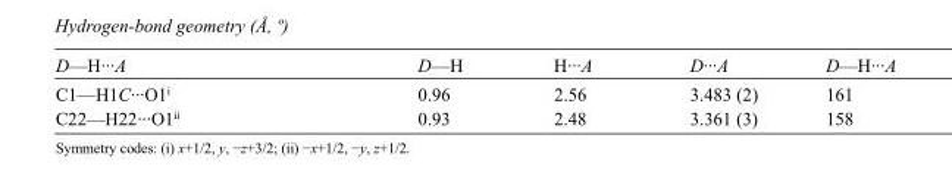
<table><tbody><tr><td>D—H···A</td><td>D—H</td><td>H···A</td><td>D···A</td><td>D—H···A</td></tr><tr><td>C1—H1C···O1<sup>i</sup></td><td>0.96</td><td>2.56</td><td>3.483 (2)</td><td>161</td></tr><tr><td>C22—H22···O1<sup>ii</sup></td><td>0.93</td><td>2.48</td><td>3.361 (3)</td><td>158</td></tr></tbody></table>